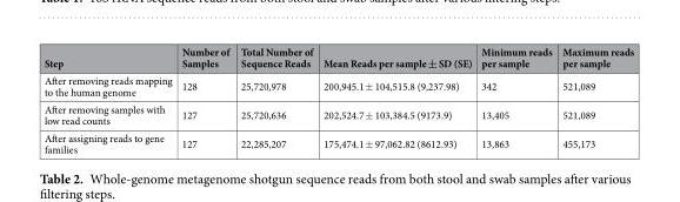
<table><thead><tr><td>Step</td><td>Number of Samples</td><td>Total Number of Sequence Reads</td><td>Mean Reads per sample ± SD (SE)</td><td>Minimum reads per sample</td><td>Maximum reads per sample</td></tr></thead><tbody><tr><td>After removing reads mapping to the human genome</td><td>128</td><td>25,720,978</td><td>200,945.1 ± 104,515.8 (9,237.98)</td><td>342</td><td>521,089</td></tr><tr><td>After removing samples with low read counts</td><td>127</td><td>25,720,636</td><td>202,524.7 ± 103,384.5 (9173.9)</td><td>13,405</td><td>521,089</td></tr><tr><td>After assigning reads to gene families</td><td>127</td><td>22,285,207</td><td>175,474.1 ± 97,062.82 (8612.93)</td><td>13,863</td><td>455,173</td></tr></tbody></table>